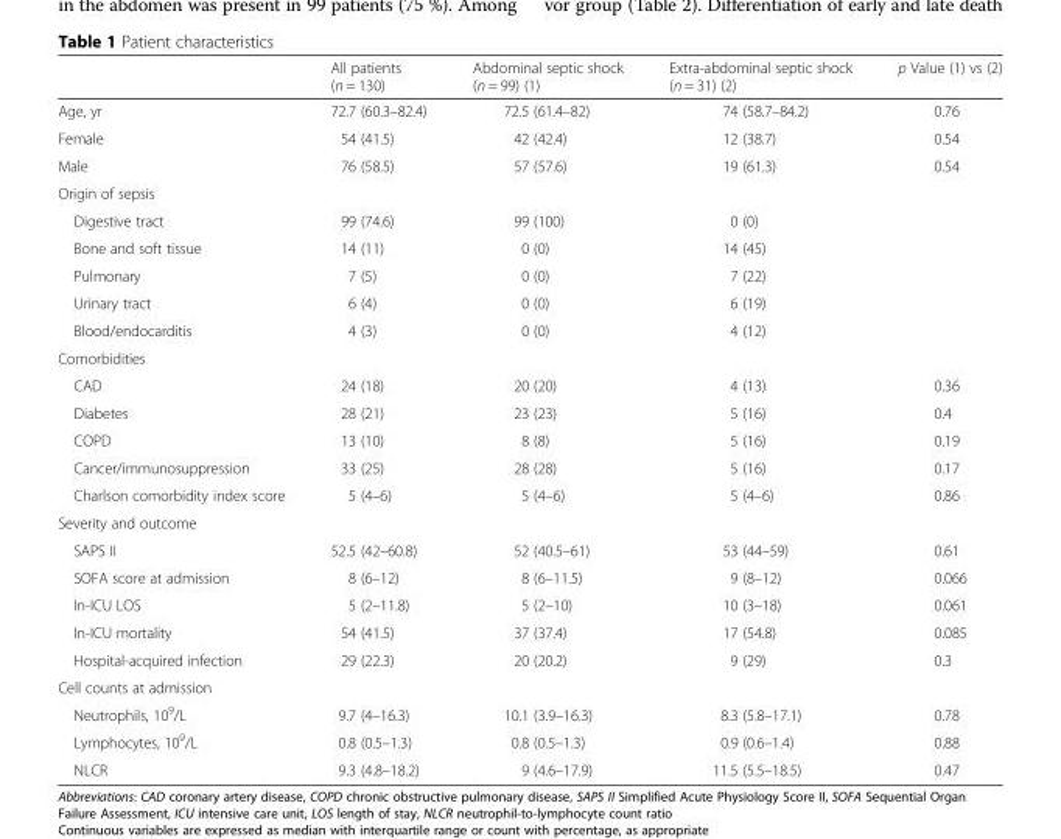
<table><thead><tr><td></td><td>All patients (n = 130)</td><td>Abdominal septic shock (n = 99) (1)</td><td>Extra-abdominal septic shock (n = 31) (2)</td><td>p Value (1) vs (2)</td></tr></thead><tbody><tr><td>Age, yr</td><td>72.7 (60.3–82.4)</td><td>72.5 (61.4–82)</td><td>74 (58.7–84.2)</td><td>0.76</td></tr><tr><td>Female</td><td>54 (41.5)</td><td>42 (42.4)</td><td>12 (38.7)</td><td>0.54</td></tr><tr><td>Male</td><td>76 (58.5)</td><td>57 (57.6)</td><td>19 (61.3)</td><td>0.54</td></tr><tr><td colspan="5">Origin of sepsis</td></tr><tr><td>Digestive tract</td><td>99 (74.6)</td><td>99 (100)</td><td>0 (0)</td><td></td></tr><tr><td>Bone and soft tissue</td><td>14 (11)</td><td>0 (0)</td><td>14 (45)</td><td></td></tr><tr><td>Pulmonary</td><td>7 (5)</td><td>0 (0)</td><td>7 (22)</td><td></td></tr><tr><td>Urinary tract</td><td>6 (4)</td><td>0 (0)</td><td>6 (19)</td><td></td></tr><tr><td>Blood/endocarditis</td><td>4 (3)</td><td>0 (0)</td><td>4 (12)</td><td></td></tr><tr><td colspan="5">Comorbidities</td></tr><tr><td>CAD</td><td>24 (18)</td><td>20 (20)</td><td>4 (13)</td><td>0.36</td></tr><tr><td>Diabetes</td><td>28 (21)</td><td>23 (23)</td><td>5 (16)</td><td>0.4</td></tr><tr><td>COPD</td><td>13 (10)</td><td>8 (8)</td><td>5 (16)</td><td>0.19</td></tr><tr><td>Cancer/immunosuppression</td><td>33 (25)</td><td>28 (28)</td><td>5 (16)</td><td>0.17</td></tr><tr><td>Charlson comorbidity index score</td><td>5 (4–6)</td><td>5 (4–6)</td><td>5 (4–6)</td><td>0.86</td></tr><tr><td colspan="5">Severity and outcome</td></tr><tr><td>SAPS II</td><td>52.5 (42–60.8)</td><td>52 (40.5–61)</td><td>53 (44–59)</td><td>0.61</td></tr><tr><td>SOFA score at admission</td><td>8 (6–12)</td><td>8 (6–11.5)</td><td>9 (8–12)</td><td>0.066</td></tr><tr><td>In-ICU LOS</td><td>5 (2–11.8)</td><td>5 (2–10)</td><td>10 (3–18)</td><td>0.061</td></tr><tr><td>In-ICU mortality</td><td>54 (41.5)</td><td>37 (37.4)</td><td>17 (54.8)</td><td>0.085</td></tr><tr><td>Hospital-acquired infection</td><td>29 (22.3)</td><td>20 (20.2)</td><td>9 (29)</td><td>0.3</td></tr><tr><td colspan="5">Cell counts at admission</td></tr><tr><td>Neutrophils, 10<sup>9</sup>/L</td><td>9.7 (4–16.3)</td><td>10.1 (3.9–16.3)</td><td>8.3 (5.8–17.1)</td><td>0.78</td></tr><tr><td>Lymphocytes, 10<sup>9</sup>/L</td><td>0.8 (0.5–1.3)</td><td>0.8 (0.5–1.3)</td><td>0.9 (0.6–1.4)</td><td>0.88</td></tr><tr><td>NLCR</td><td>9.3 (4.8–18.2)</td><td>9 (4.6–17.9)</td><td>11.5 (5.5–18.5)</td><td>0.47</td></tr></tbody></table>